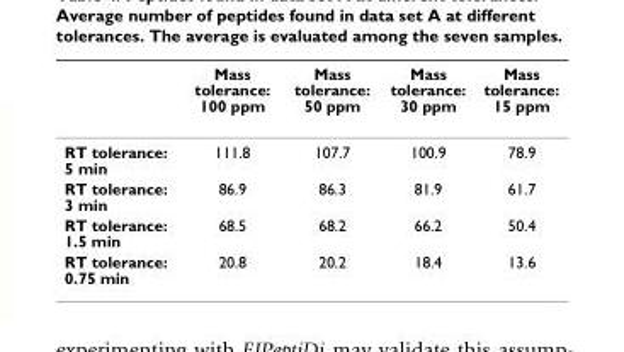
<table><thead><tr><td></td><td>Mass tolerance: 100 ppm</td><td>Mass tolerance: 50 ppm</td><td>Mass tolerance: 30 ppm</td><td>Mass tolerance: 15 ppm</td></tr></thead><tbody><tr><td>RT tolerance: 5 min</td><td>111.8</td><td>107.7</td><td>100.9</td><td>78.9</td></tr><tr><td>RT tolerance: 3 min</td><td>86.9</td><td>86.3</td><td>81.9</td><td>61.7</td></tr><tr><td>RT tolerance: 1.5 min</td><td>68.5</td><td>68.2</td><td>66.2</td><td>50.4</td></tr><tr><td>RT tolerance: 0.75 min</td><td>20.8</td><td>20.2</td><td>18.4</td><td>13.6</td></tr></tbody></table>